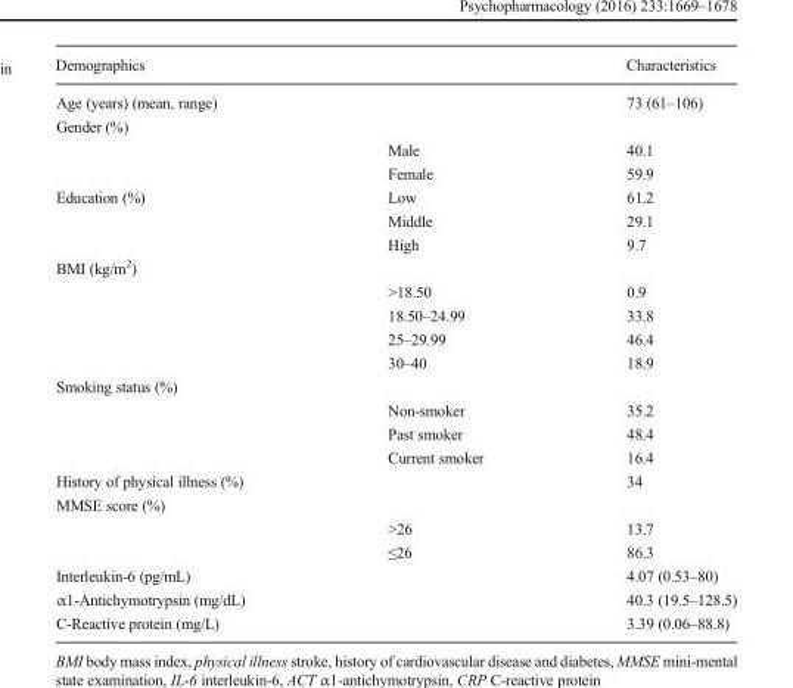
<table><thead><tr><td>Demographics</td><td></td><td>Characteristics</td></tr></thead><tbody><tr><td>Age (years) (mean, range)</td><td></td><td>73 (61–106)</td></tr><tr><td colspan="3">Gender (%)</td></tr><tr><td></td><td>Male</td><td>40.1</td></tr><tr><td></td><td>Female</td><td>59.9</td></tr><tr><td rowspan="3">Education (%)</td><td>Low</td><td>61.2</td></tr><tr><td>Middle</td><td>29.1</td></tr><tr><td>High</td><td>9.7</td></tr><tr><td colspan="3">BMI (kg/m<sup>2</sup>)</td></tr><tr><td></td><td>&gt;18.50</td><td>0.9</td></tr><tr><td></td><td>18.50–24.99</td><td>33.8</td></tr><tr><td></td><td>25–29.99</td><td>46.4</td></tr><tr><td></td><td>30–40</td><td>18.9</td></tr><tr><td colspan="3">Smoking status (%)</td></tr><tr><td></td><td>Non-smoker</td><td>35.2</td></tr><tr><td></td><td>Past smoker</td><td>48.4</td></tr><tr><td></td><td>Current smoker</td><td>16.4</td></tr><tr><td>History of physical illness (%)</td><td></td><td>34</td></tr><tr><td colspan="3">MMSE score (%)</td></tr><tr><td></td><td>&gt;26</td><td>13.7</td></tr><tr><td></td><td>≤26</td><td>86.3</td></tr><tr><td>Interleukin-6 (pg/mL)</td><td></td><td>4.07 (0.53–80)</td></tr><tr><td>α1-Antichymotrypsin (mg/dL)</td><td></td><td>40.3 (19.5–128.5)</td></tr><tr><td>C-Reactive protein (mg/L)</td><td></td><td>3.39 (0.06–88.8)</td></tr></tbody></table>